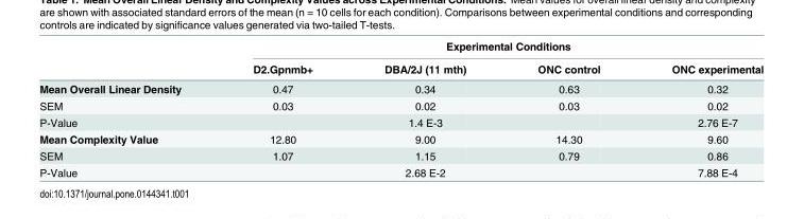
<table><thead><tr><td rowspan="2"></td><td colspan="4">Experimental Conditions</td></tr><tr><td>D2.Gpnmb+</td><td>DBA/2J (11 mth)</td><td>ONC control</td><td>ONC experimental</td></tr></thead><tbody><tr><td>Mean Overall Linear Density</td><td>0.47</td><td>0.34</td><td>0.63</td><td>0.32</td></tr><tr><td>SEM</td><td>0.03</td><td>0.02</td><td>0.03</td><td>0.02</td></tr><tr><td>P-Value</td><td></td><td>1.4 E-3</td><td></td><td>2.76 E-7</td></tr><tr><td>Mean Complexity Value</td><td>12.80</td><td>9.00</td><td>14.30</td><td>9.60</td></tr><tr><td>SEM</td><td>1.07</td><td>1.15</td><td>0.79</td><td>0.86</td></tr><tr><td>P-Value</td><td></td><td>2.68 E-2</td><td></td><td>7.88 E-4</td></tr></tbody></table>